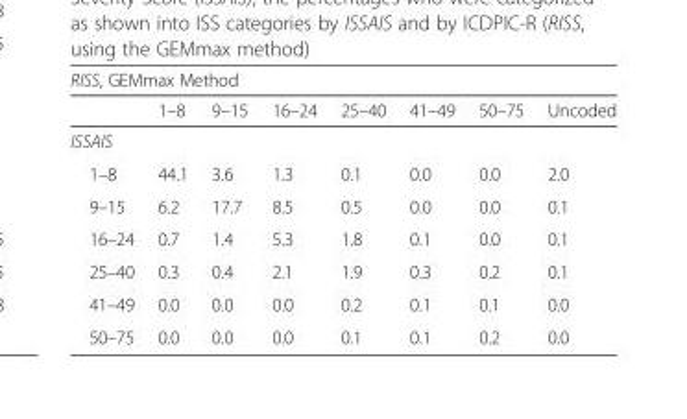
<table><thead><tr><td colspan="8">RISS, GEMmax Method</td></tr><tr><td></td><td>1–8</td><td>9–15</td><td>16–24</td><td>25–40</td><td>41–49</td><td>50–75</td><td>Uncoded</td></tr></thead><tbody><tr><td colspan="8">ISSAIS</td></tr><tr><td>1–8</td><td>44.1</td><td>3.6</td><td>1.3</td><td>0.1</td><td>0.0</td><td>0.0</td><td>2.0</td></tr><tr><td>9–15</td><td>6.2</td><td>17.7</td><td>8.5</td><td>0.5</td><td>0.0</td><td>0.0</td><td>0.1</td></tr><tr><td>16–24</td><td>0.7</td><td>1.4</td><td>5.3</td><td>1.8</td><td>0.1</td><td>0.0</td><td>0.1</td></tr><tr><td>25–40</td><td>0.3</td><td>0.4</td><td>2.1</td><td>1.9</td><td>0.3</td><td>0.2</td><td>0.1</td></tr><tr><td>41–49</td><td>0.0</td><td>0.0</td><td>0.0</td><td>0.2</td><td>0.1</td><td>0.1</td><td>0.0</td></tr><tr><td>50–75</td><td>0.0</td><td>0.0</td><td>0.0</td><td>0.1</td><td>0.1</td><td>0.2</td><td>0.0</td></tr></tbody></table>